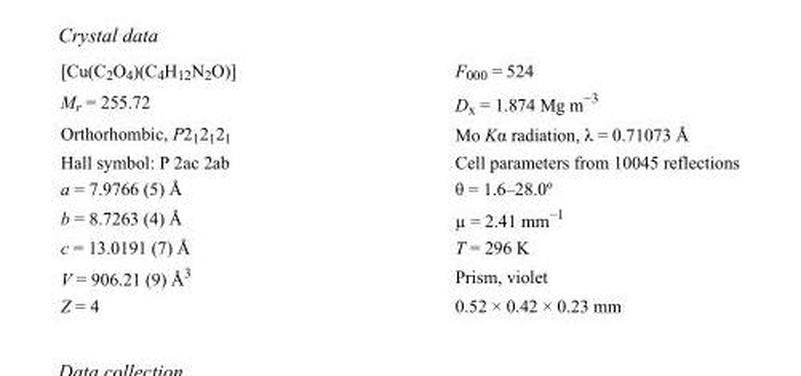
<table><tbody><tr><td>[Cu(C<sub>2</sub>O<sub>4</sub>)(C<sub>4</sub>H<sub>12</sub>N<sub>2</sub>O)]</td><td>F000 = 524</td></tr><tr><td>M<sub>r</sub> = 255.72</td><td>D<sub>x</sub> = 1.874 Mg m<sup>−3</sup></td></tr><tr><td>Orthorhombic, P2<sub>1</sub>2<sub>1</sub>2<sub>1</sub></td><td>Mo Kα radiation, λ = 0.71073 Å</td></tr><tr><td>Hall symbol: P 2ac 2ab</td><td>Cell parameters from 10045 reflections</td></tr><tr><td>a = 7.9766 (5) Å</td><td>θ = 1.6–28.0º</td></tr><tr><td>b = 8.7263 (4) Å</td><td>µ = 2.41 mm<sup>−1</sup></td></tr><tr><td>c = 13.0191 (7) Å</td><td>T = 296 K</td></tr><tr><td>V = 906.21 (9) Å<sup>3</sup></td><td>Prism, violet</td></tr><tr><td>Z = 4</td><td>0.52 × 0.42 × 0.23 mm</td></tr></tbody></table>